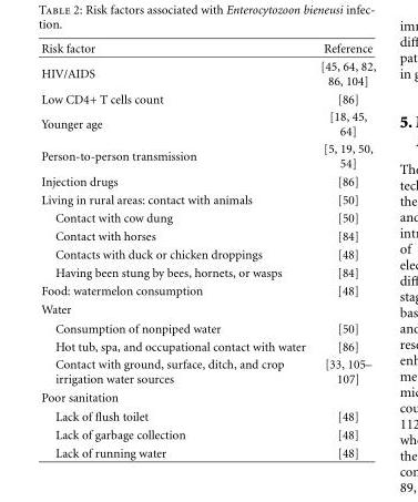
<table><thead><tr><td>Risk factor</td><td>Reference</td></tr></thead><tbody><tr><td>HIV/AIDS</td><td>[45, 64, 82, 86, 104]</td></tr><tr><td>Low CD4+ T cells count</td><td>[86]</td></tr><tr><td>Younger age</td><td>[18, 45, 64]</td></tr><tr><td>Person-to-person transmission</td><td>[5, 19, 50, 54]</td></tr><tr><td>Injection drugs</td><td>[86]</td></tr><tr><td>Living in rural areas: contact with animals</td><td>[50]</td></tr><tr><td>Contact with cow dung</td><td>[50]</td></tr><tr><td>Contact with horses</td><td>[84]</td></tr><tr><td>Contacts with duck or chicken droppings</td><td>[48]</td></tr><tr><td>Having been stung by bees, hornets, or wasps</td><td>[84]</td></tr><tr><td>Food: watermelon consumption</td><td>[48]</td></tr><tr><td colspan="2">Water</td></tr><tr><td>Consumption of nonpiped water</td><td>[50]</td></tr><tr><td>Hot tub, spa, and occupational contact with water</td><td>[86]</td></tr><tr><td>Contact with ground, surface, ditch, and crop irrigation water sources</td><td>[33, 105– 107]</td></tr><tr><td colspan="2">Poor sanitation</td></tr><tr><td>Lack of flush toilet</td><td>[48]</td></tr><tr><td>Lack of garbage collection</td><td>[48]</td></tr><tr><td>Lack of running water</td><td>[48]</td></tr></tbody></table>